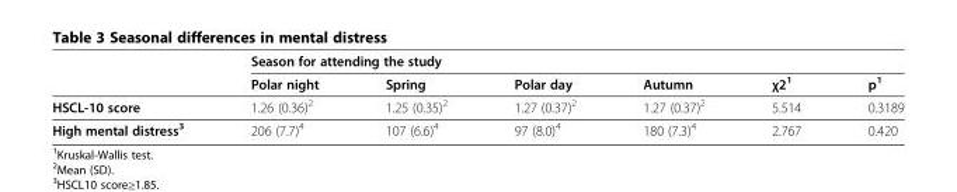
<table><thead><tr><td rowspan="2"></td><td colspan="6">Season for attending the study</td></tr><tr><td>Polar night</td><td>Spring</td><td>Polar day</td><td>Autumn</td><td>χ2<sup>1</sup></td><td>p<sup>1</sup></td></tr></thead><tbody><tr><td>HSCL-10 score</td><td>1.26 (0.36)<sup>2</sup></td><td>1.25 (0.35)<sup>2</sup></td><td>1.27 (0.37)<sup>2</sup></td><td>1.27 (0.37)<sup>2</sup></td><td>5.514</td><td>0.3189</td></tr><tr><td>High mental distress<sup>3</sup></td><td>206 (7.7)<sup>4</sup></td><td>107 (6.6)<sup>4</sup></td><td>97 (8.0)<sup>4</sup></td><td>180 (7.3)<sup>4</sup></td><td>2.767</td><td>0.420</td></tr></tbody></table>